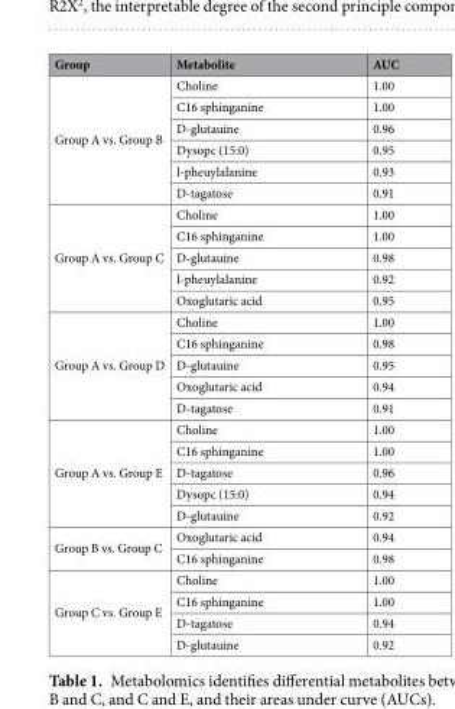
<table><thead><tr><td>Group</td><td>Metabolite</td><td>AUC</td></tr></thead><tbody><tr><td rowspan="6">Group A vs. Group B</td><td>Choline</td><td>1.00</td></tr><tr><td>C16 sphinganine</td><td>1.00</td></tr><tr><td>D-glutauine</td><td>0.96</td></tr><tr><td>Dysopc (15:0)</td><td>0.95</td></tr><tr><td>l-pheuylalanine</td><td>0.93</td></tr><tr><td>D-tagatose</td><td>0.91</td></tr><tr><td rowspan="5">Group A vs. Group C</td><td>Choline</td><td>1.00</td></tr><tr><td>C16 sphinganine</td><td>1.00</td></tr><tr><td>D-glutauine</td><td>0.98</td></tr><tr><td>l-pheuylalanine</td><td>0.92</td></tr><tr><td>Oxoglutaric acid</td><td>0.95</td></tr><tr><td rowspan="5">Group A vs. Group D</td><td>Choline</td><td>1.00</td></tr><tr><td>C16 sphinganine</td><td>0.98</td></tr><tr><td>D-glutauine</td><td>0.95</td></tr><tr><td>Oxoglutaric acid</td><td>0.94</td></tr><tr><td>D-tagatose</td><td>0.91</td></tr><tr><td rowspan="5">Group A vs. Group E</td><td>Choline</td><td>1.00</td></tr><tr><td>C16 sphinganine</td><td>1.00</td></tr><tr><td>D-tagatose</td><td>0.96</td></tr><tr><td>Dysopc (15:0)</td><td>0.94</td></tr><tr><td>D-glutauine</td><td>0.92</td></tr><tr><td rowspan="2">Group B vs. Group C</td><td>Oxoglutaric acid</td><td>0.94</td></tr><tr><td>C16 sphinganine</td><td>0.98</td></tr><tr><td rowspan="4">Group C vs. Group E</td><td>Choline</td><td>1.00</td></tr><tr><td>C16 sphinganine</td><td>1.00</td></tr><tr><td>D-tagatose</td><td>0.94</td></tr><tr><td>D-glutauine</td><td>0.92</td></tr></tbody></table>